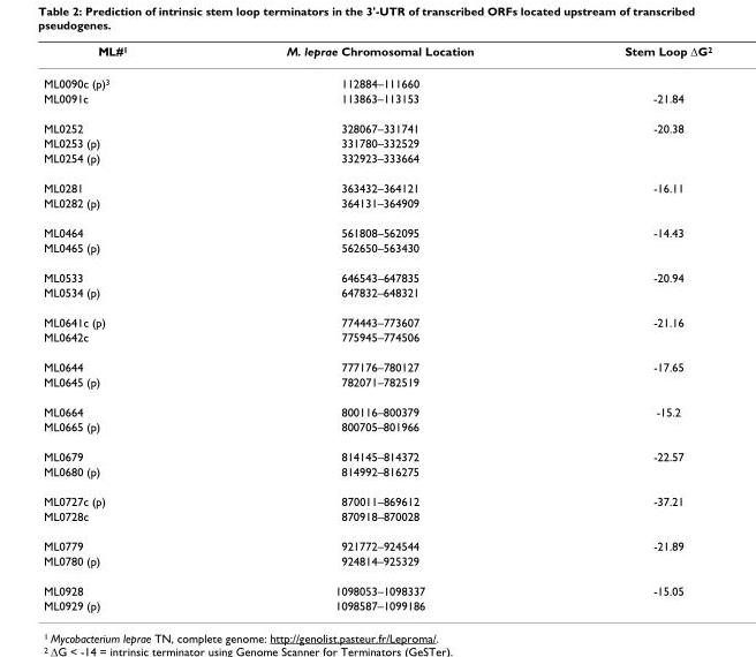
<table><thead><tr><td>ML#<sup>1</sup></td><td>M. leprae Chromosomal Location</td><td>Stem Loop ΔG<sup>2</sup></td></tr></thead><tbody><tr><td>ML0090c (p)<sup>3</sup></td><td>112884–111660</td><td></td></tr><tr><td>ML0091c</td><td>113863–113153</td><td>-21.84</td></tr><tr><td>ML0252</td><td>328067–331741</td><td>-20.38</td></tr><tr><td>ML0253 (p)</td><td>331780–332529</td><td></td></tr><tr><td>ML0254 (p)</td><td>332923–333664</td><td></td></tr><tr><td>ML0281</td><td>363432–364121</td><td>-16.11</td></tr><tr><td>ML0282 (p)</td><td>364131–364909</td><td></td></tr><tr><td>ML0464</td><td>561808–562095</td><td>-14.43</td></tr><tr><td>ML0465 (p)</td><td>562650–563430</td><td></td></tr><tr><td>ML0533</td><td>646543–647835</td><td>-20.94</td></tr><tr><td>ML0534 (p)</td><td>647832–648321</td><td></td></tr><tr><td>ML0641c (p)</td><td>774443–773607</td><td>-21.16</td></tr><tr><td>ML0642c</td><td>775945–774506</td><td></td></tr><tr><td>ML0644</td><td>777176–780127</td><td>-17.65</td></tr><tr><td>ML0645 (p)</td><td>782071–782519</td><td></td></tr><tr><td>ML0664</td><td>800116–800379</td><td>-15.2</td></tr><tr><td>ML0665 (p)</td><td>800705–801966</td><td></td></tr><tr><td>ML0679</td><td>814145–814372</td><td>-22.57</td></tr><tr><td>ML0680 (p)</td><td>814992–816275</td><td></td></tr><tr><td>ML0727c (p)</td><td>870011–869612</td><td>-37.21</td></tr><tr><td>ML0728c</td><td>870918–870028</td><td></td></tr><tr><td>ML0779</td><td>921772–924544</td><td>-21.89</td></tr><tr><td>ML0780 (p)</td><td>924814–925329</td><td></td></tr><tr><td>ML0928</td><td>1098053–1098337</td><td>-15.05</td></tr><tr><td>ML0929 (p)</td><td>1098587–1099186</td><td></td></tr></tbody></table>